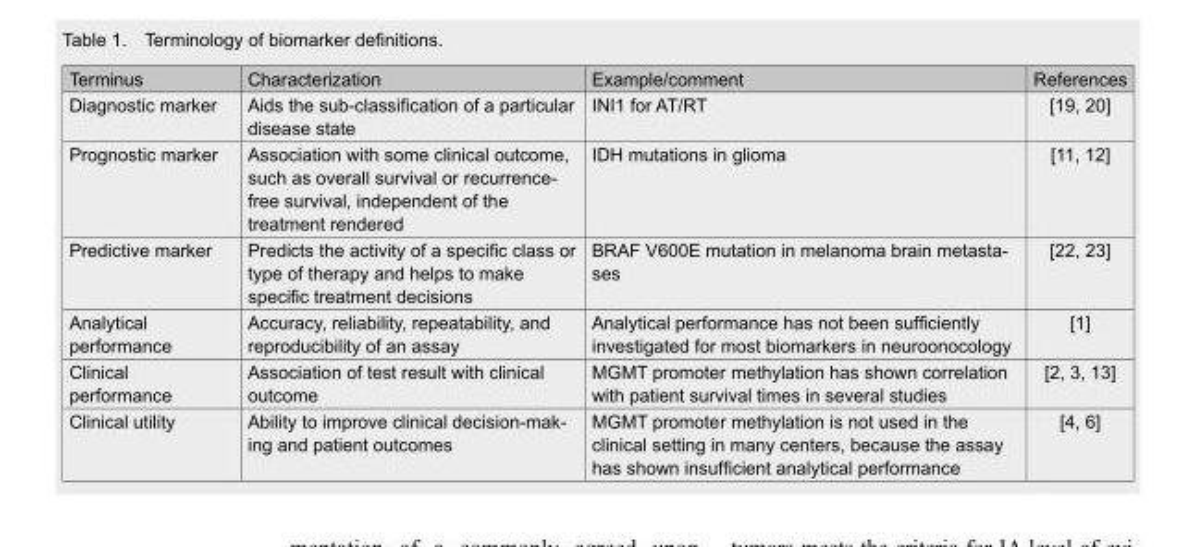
<table><thead><tr><td>Terminus</td><td>Characterization</td><td>Example/comment</td><td>References</td></tr></thead><tbody><tr><td>Diagnostic marker</td><td>Aids the sub-classification of a particular disease state</td><td>INI1 for AT/RT</td><td>[19, 20]</td></tr><tr><td>Prognostic marker</td><td>Association with some clinical outcome, such as overall survival or recurrence- free survival, independent of the treatment rendered</td><td>IDH mutations in glioma</td><td>[11, 12]</td></tr><tr><td>Predictive marker</td><td>Predicts the activity of a specific class or type of therapy and helps to make specific treatment decisions</td><td>BRAF V600E mutation in melanoma brain metasta- ses</td><td>[22, 23]</td></tr><tr><td>Analytical performance</td><td>Accuracy, reliability, repeatability, and reproducibility of an assay</td><td>Analytical performance has not been sufficiently investigated for most biomarkers in neuroonocology</td><td>[1]</td></tr><tr><td>Clinical performance</td><td>Association of test result with clinical outcome</td><td>MGMT promoter methylation has shown correlation with patient survival times in several studies</td><td>[2, 3, 13]</td></tr><tr><td>Clinical utility</td><td>Ability to improve clinical decision-mak- ing and patient outcomes</td><td>MGMT promoter methylation is not used in the clinical setting in many centers, because the assay has shown insufficient analytical performance</td><td>[4, 6]</td></tr></tbody></table>